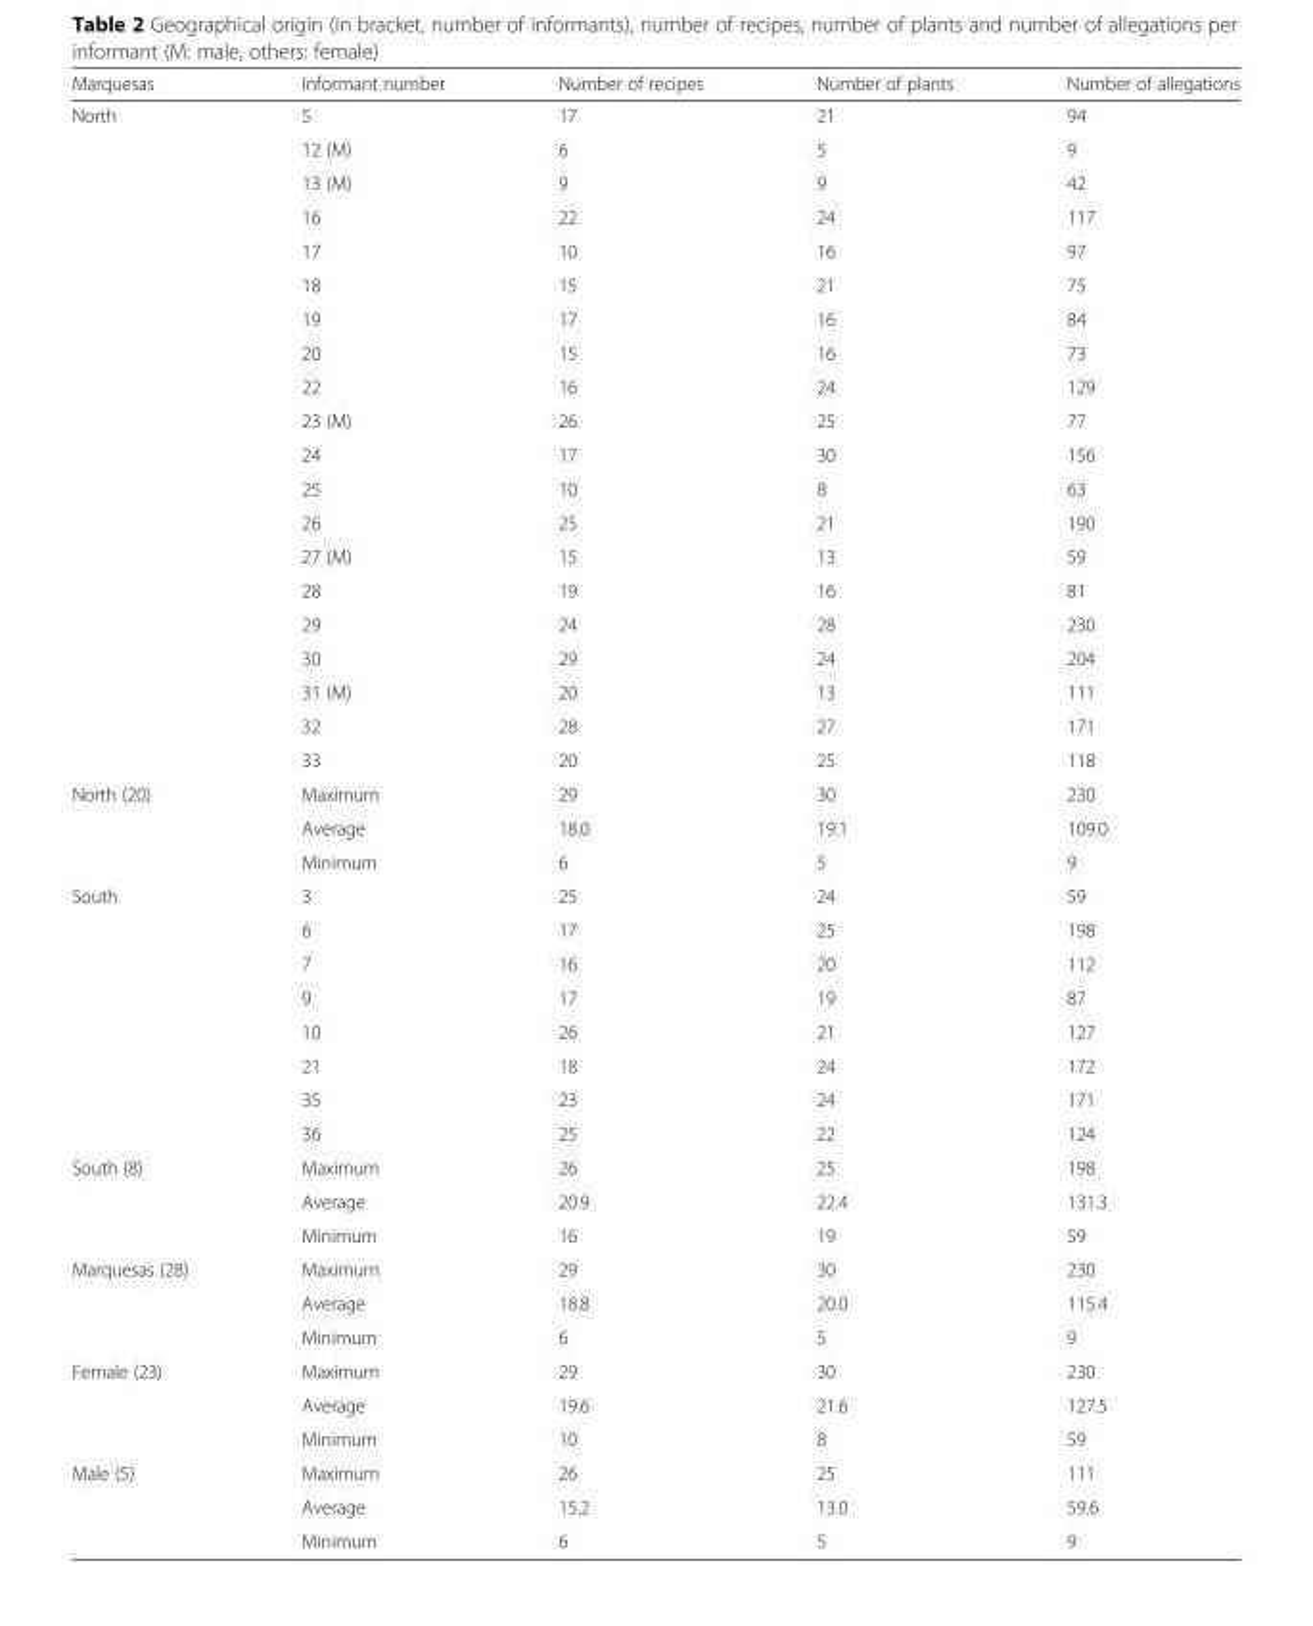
<table><thead><tr><td>Marquesas</td><td>Informant number</td><td>Number of recipes</td><td>Number of plants</td><td>Number of allegations</td></tr></thead><tbody><tr><td rowspan="20">North</td><td>5</td><td>17</td><td>21</td><td>94</td></tr><tr><td>12 (M)</td><td>6</td><td>5</td><td>9</td></tr><tr><td>13 (M)</td><td>9</td><td>9</td><td>42</td></tr><tr><td>16</td><td>22</td><td>24</td><td>117</td></tr><tr><td>17</td><td>10</td><td>16</td><td>97</td></tr><tr><td>18</td><td>15</td><td>21</td><td>75</td></tr><tr><td>19</td><td>17</td><td>16</td><td>84</td></tr><tr><td>20</td><td>15</td><td>16</td><td>73</td></tr><tr><td>22</td><td>16</td><td>24</td><td>129</td></tr><tr><td>23 (M)</td><td>26</td><td>25</td><td>77</td></tr><tr><td>24</td><td>17</td><td>30</td><td>156</td></tr><tr><td>25</td><td>10</td><td>8</td><td>63</td></tr><tr><td>26</td><td>25</td><td>21</td><td>190</td></tr><tr><td>27 (M)</td><td>15</td><td>13</td><td>59</td></tr><tr><td>28</td><td>19</td><td>16</td><td>81</td></tr><tr><td>29</td><td>24</td><td>28</td><td>230</td></tr><tr><td>30</td><td>29</td><td>24</td><td>204</td></tr><tr><td>31 (M)</td><td>20</td><td>13</td><td>111</td></tr><tr><td>32</td><td>28</td><td>27</td><td>171</td></tr><tr><td>33</td><td>20</td><td>25</td><td>118</td></tr><tr><td rowspan="3">North (20)</td><td>Maximum</td><td>29</td><td>30</td><td>230</td></tr><tr><td>Average</td><td>18.0</td><td>19.1</td><td>109.0</td></tr><tr><td>Minimum</td><td>6</td><td>5</td><td>9</td></tr><tr><td rowspan="8">South</td><td>3</td><td>25</td><td>24</td><td>59</td></tr><tr><td>6</td><td>17</td><td>25</td><td>198</td></tr><tr><td>7</td><td>16</td><td>20</td><td>112</td></tr><tr><td>9</td><td>17</td><td>19</td><td>87</td></tr><tr><td>10</td><td>26</td><td>21</td><td>127</td></tr><tr><td>21</td><td>18</td><td>24</td><td>172</td></tr><tr><td>35</td><td>23</td><td>24</td><td>171</td></tr><tr><td>36</td><td>25</td><td>22</td><td>124</td></tr><tr><td rowspan="3">South (8)</td><td>Maximum</td><td>26</td><td>25</td><td>198</td></tr><tr><td>Average</td><td>20.9</td><td>22.4</td><td>131.3</td></tr><tr><td>Minimum</td><td>16</td><td>19</td><td>59</td></tr><tr><td rowspan="3">Marquesas (28)</td><td>Maximum</td><td>29</td><td>30</td><td>230</td></tr><tr><td>Average</td><td>18.8</td><td>20.0</td><td>115.4</td></tr><tr><td>Minimum</td><td>6</td><td>5</td><td>9</td></tr><tr><td rowspan="3">Female (23)</td><td>Maximum</td><td>29</td><td>30</td><td>230</td></tr><tr><td>Average</td><td>19.6</td><td>21.6</td><td>127.5</td></tr><tr><td>Minimum</td><td>10</td><td>8</td><td>59</td></tr><tr><td rowspan="3">Male (5)</td><td>Maximum</td><td>26</td><td>25</td><td>111</td></tr><tr><td>Average</td><td>15.2</td><td>13.0</td><td>59.6</td></tr><tr><td>Minimum</td><td>6</td><td>5</td><td>9</td></tr></tbody></table>